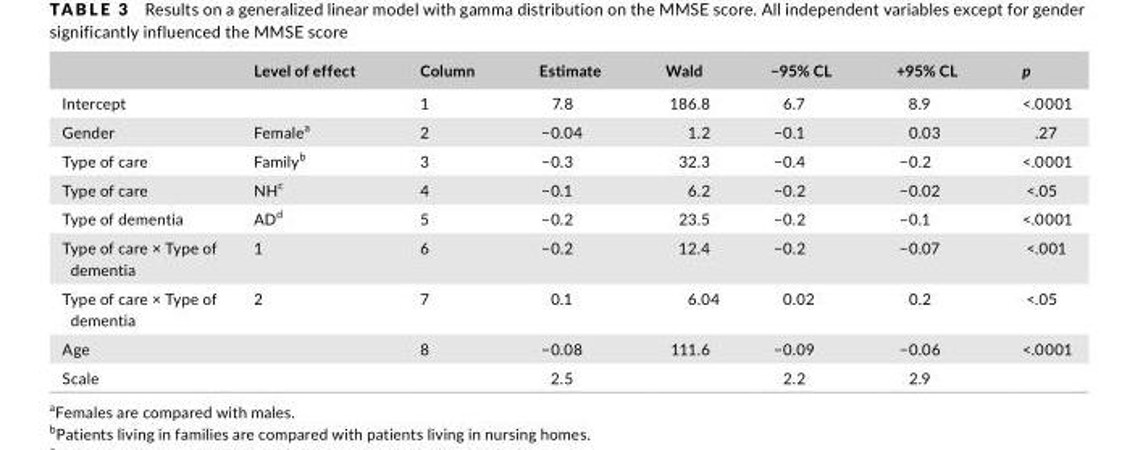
<table><thead><tr><td></td><td>Level of effect</td><td>Column</td><td>Estimate</td><td>Wald</td><td>−95% CL</td><td>+95% CL</td><td>p</td></tr></thead><tbody><tr><td>Intercept</td><td></td><td>1</td><td>7.8</td><td>186.8</td><td>6.7</td><td>8.9</td><td>&lt;.0001</td></tr><tr><td>Gender</td><td>Female<sup>a</sup></td><td>2</td><td>−0.04</td><td>1.2</td><td>−0.1</td><td>0.03</td><td>.27</td></tr><tr><td>Type of care</td><td>Family<sup>b</sup></td><td>3</td><td>−0.3</td><td>32.3</td><td>−0.4</td><td>−0.2</td><td>&lt;.0001</td></tr><tr><td>Type of care</td><td>NH<sup>c</sup></td><td>4</td><td>−0.1</td><td>6.2</td><td>−0.2</td><td>−0.02</td><td>&lt;.05</td></tr><tr><td>Type of dementia</td><td>AD<sup>d</sup></td><td>5</td><td>−0.2</td><td>23.5</td><td>−0.2</td><td>−0.1</td><td>&lt;.0001</td></tr><tr><td>Type of care × Type of dementia</td><td>1</td><td>6</td><td>−0.2</td><td>12.4</td><td>−0.2</td><td>−0.07</td><td>&lt;.001</td></tr><tr><td>Type of care × Type of dementia</td><td>2</td><td>7</td><td>0.1</td><td>6.04</td><td>0.02</td><td>0.2</td><td>&lt;.05</td></tr><tr><td>Age</td><td></td><td>8</td><td>−0.08</td><td>111.6</td><td>−0.09</td><td>−0.06</td><td>&lt;.0001</td></tr><tr><td>Scale</td><td></td><td></td><td>2.5</td><td></td><td>2.2</td><td>2.9</td><td></td></tr></tbody></table>